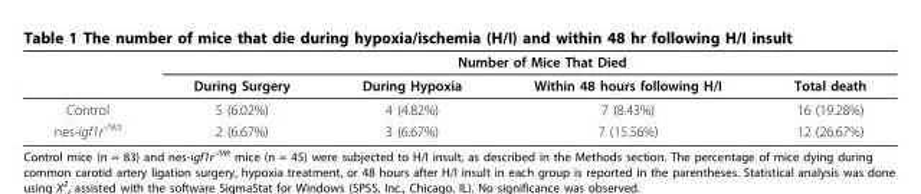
<table><thead><tr><td rowspan="2"></td><td rowspan="2">During Surgery</td><td colspan="2">Number of Mice That Died</td><td rowspan="2">Total death</td></tr><tr><td>During Hypoxia</td><td>Within 48 hours following H/I</td></tr></thead><tbody><tr><td>Control</td><td>5 (6.02%)</td><td>4 (4.82%)</td><td>7 (8.43%)</td><td>16 (19.28%)</td></tr><tr><td>nes-igf1r<sup>-/Wt</sup></td><td>2 (6.67%)</td><td>3 (6.67%)</td><td>7 (15.56%)</td><td>12 (26.67%)</td></tr></tbody></table>